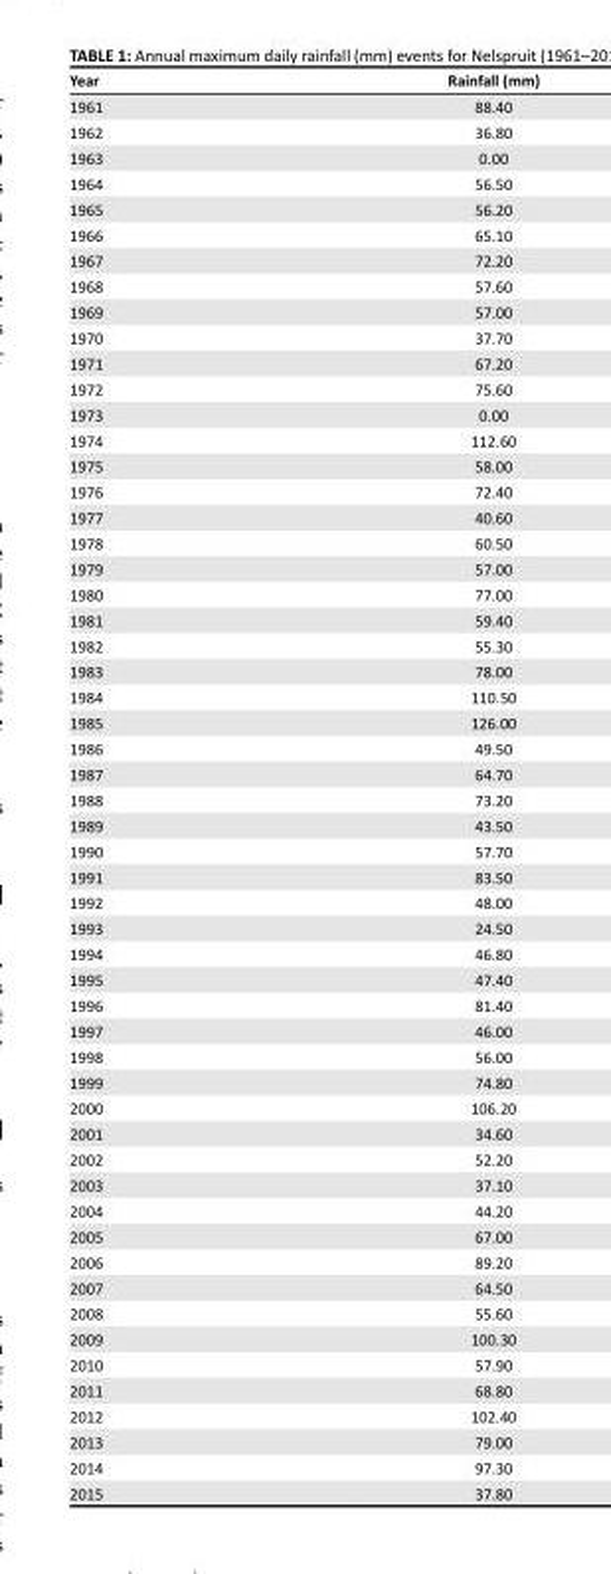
<table><thead><tr><td>Year</td><td>Rainfall (mm)</td></tr></thead><tbody><tr><td>1961</td><td>88.40</td></tr><tr><td>1962</td><td>36.80</td></tr><tr><td>1963</td><td>0.00</td></tr><tr><td>1964</td><td>56.50</td></tr><tr><td>1965</td><td>56.20</td></tr><tr><td>1966</td><td>65.10</td></tr><tr><td>1967</td><td>72.20</td></tr><tr><td>1968</td><td>57.60</td></tr><tr><td>1969</td><td>57.00</td></tr><tr><td>1970</td><td>37.70</td></tr><tr><td>1971</td><td>67.20</td></tr><tr><td>1972</td><td>75.60</td></tr><tr><td>1973</td><td>0.00</td></tr><tr><td>1974</td><td>112.60</td></tr><tr><td>1975</td><td>58.00</td></tr><tr><td>1976</td><td>72.40</td></tr><tr><td>1977</td><td>40.60</td></tr><tr><td>1978</td><td>60.50</td></tr><tr><td>1979</td><td>57.00</td></tr><tr><td>1980</td><td>77.00</td></tr><tr><td>1981</td><td>59.40</td></tr><tr><td>1982</td><td>55.30</td></tr><tr><td>1983</td><td>78.00</td></tr><tr><td>1984</td><td>110.50</td></tr><tr><td>1985</td><td>126.00</td></tr><tr><td>1986</td><td>49.50</td></tr><tr><td>1987</td><td>64.70</td></tr><tr><td>1988</td><td>73.20</td></tr><tr><td>1989</td><td>43.50</td></tr><tr><td>1990</td><td>57.70</td></tr><tr><td>1991</td><td>83.50</td></tr><tr><td>1992</td><td>48.00</td></tr><tr><td>1993</td><td>24.50</td></tr><tr><td>1994</td><td>46.80</td></tr><tr><td>1995</td><td>47.40</td></tr><tr><td>1996</td><td>81.40</td></tr><tr><td>1997</td><td>46.00</td></tr><tr><td>1998</td><td>56.00</td></tr><tr><td>1999</td><td>74.80</td></tr><tr><td>2000</td><td>106.20</td></tr><tr><td>2001</td><td>34.60</td></tr><tr><td>2002</td><td>52.20</td></tr><tr><td>2003</td><td>37.10</td></tr><tr><td>2004</td><td>44.20</td></tr><tr><td>2005</td><td>67.00</td></tr><tr><td>2006</td><td>89.20</td></tr><tr><td>2007</td><td>64.50</td></tr><tr><td>2008</td><td>55.60</td></tr><tr><td>2009</td><td>100.30</td></tr><tr><td>2010</td><td>57.90</td></tr><tr><td>2011</td><td>68.80</td></tr><tr><td>2012</td><td>102.40</td></tr><tr><td>2013</td><td>79.00</td></tr><tr><td>2014</td><td>97.30</td></tr><tr><td>2015</td><td>37.80</td></tr></tbody></table>